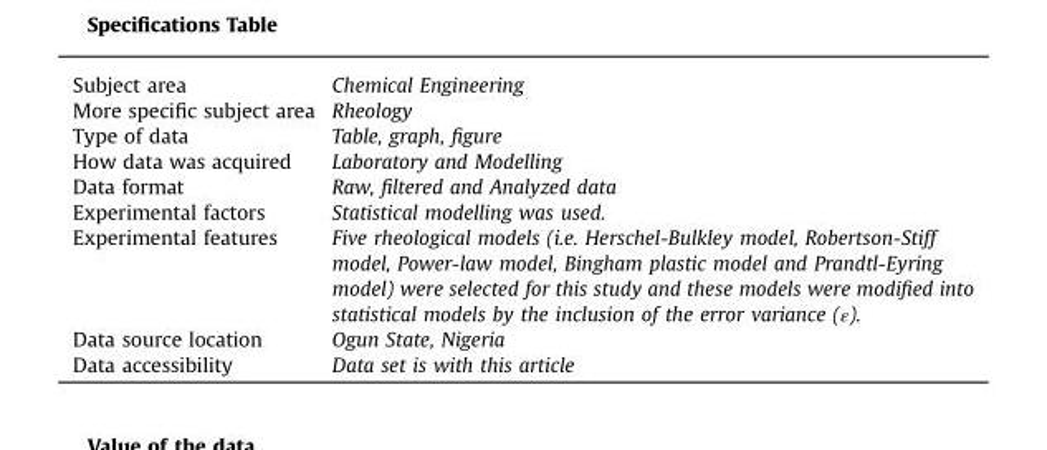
<table><tbody><tr><td>Subject area</td><td>Chemical Engineering</td></tr><tr><td>More specific subject area</td><td>Rheology</td></tr><tr><td>Type of data</td><td>Table, graph, figure</td></tr><tr><td>How data was acquired</td><td>Laboratory and Modelling</td></tr><tr><td>Data format</td><td>Raw, filtered and Analyzed data</td></tr><tr><td>Experimental factors</td><td>Statistical modelling was used.</td></tr><tr><td>Experimental features</td><td>Five rheological models (i.e. Herschel-Bulkley model, Robertson-Stiff model, Power-law model, Bingham plastic model and Prandtl-Eyring model) were selected for this study and these models were modified into statistical models by the inclusion of the error variance (ε).</td></tr><tr><td>Data source location</td><td>Ogun State, Nigeria</td></tr><tr><td>Data accessibility</td><td>Data set is with this article</td></tr></tbody></table>